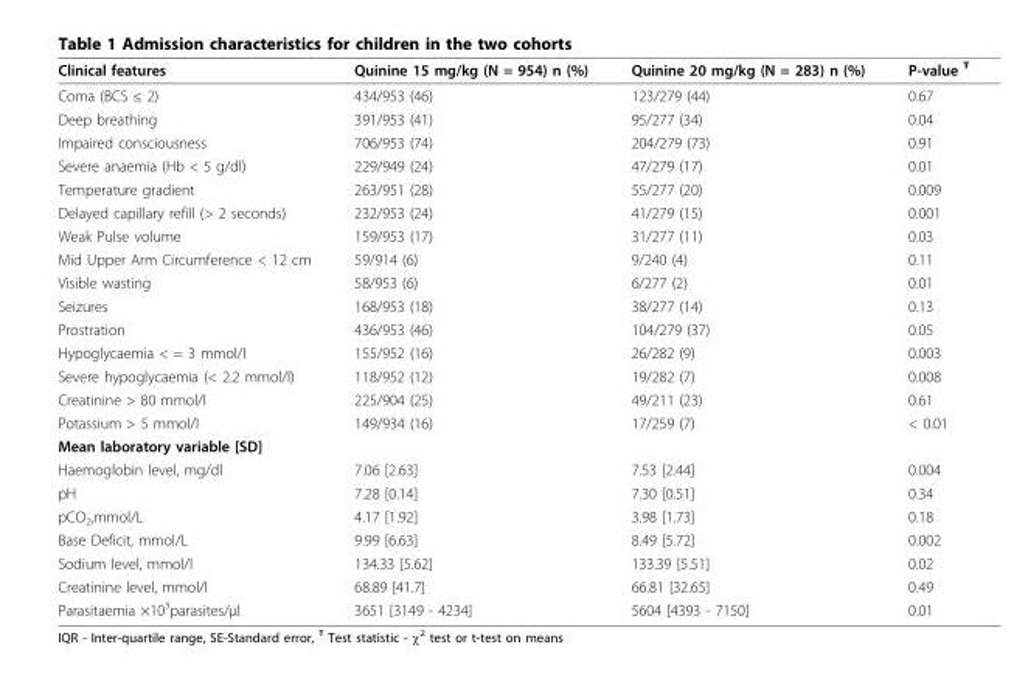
<table><thead><tr><td>Clinical features</td><td>Quinine 15 mg/kg (N = 954) n (%)</td><td>Quinine 20 mg/kg (N = 283) n (%)</td><td>P-value <sup>Ŧ</sup></td></tr></thead><tbody><tr><td>Coma (BCS ≤ 2)</td><td>434/953 (46)</td><td>123/279 (44)</td><td>0.67</td></tr><tr><td>Deep breathing</td><td>391/953 (41)</td><td>95/277 (34)</td><td>0.04</td></tr><tr><td>Impaired consciousness</td><td>706/953 (74)</td><td>204/279 (73)</td><td>0.91</td></tr><tr><td>Severe anaemia (Hb &lt; 5 g/dl)</td><td>229/949 (24)</td><td>47/279 (17)</td><td>0.01</td></tr><tr><td>Temperature gradient</td><td>263/951 (28)</td><td>55/277 (20)</td><td>0.009</td></tr><tr><td>Delayed capillary refill (&gt; 2 seconds)</td><td>232/953 (24)</td><td>41/279 (15)</td><td>0.001</td></tr><tr><td>Weak Pulse volume</td><td>159/953 (17)</td><td>31/277 (11)</td><td>0.03</td></tr><tr><td>Mid Upper Arm Circumference &lt; 12 cm</td><td>59/914 (6)</td><td>9/240 (4)</td><td>0.11</td></tr><tr><td>Visible wasting</td><td>58/953 (6)</td><td>6/277 (2)</td><td>0.01</td></tr><tr><td>Seizures</td><td>168/953 (18)</td><td>38/277 (14)</td><td>0.13</td></tr><tr><td>Prostration</td><td>436/953 (46)</td><td>104/279 (37)</td><td>0.05</td></tr><tr><td>Hypoglycaemia &lt; = 3 mmol/l</td><td>155/952 (16)</td><td>26/282 (9)</td><td>0.003</td></tr><tr><td>Severe hypoglycaemia (&lt; 2.2 mmol/l)</td><td>118/952 (12)</td><td>19/282 (7)</td><td>0.008</td></tr><tr><td>Creatinine &gt; 80 mmol/l</td><td>225/904 (25)</td><td>49/211 (23)</td><td>0.61</td></tr><tr><td>Potassium &gt; 5 mmol/l</td><td>149/934 (16)</td><td>17/259 (7)</td><td>&lt; 0.01</td></tr><tr><td colspan="4">Mean laboratory variable [SD]</td></tr><tr><td>Haemoglobin level, mg/dl</td><td>7.06 [2.63]</td><td>7.53 [2.44]</td><td>0.004</td></tr><tr><td>pH</td><td>7.28 [0.14]</td><td>7.30 [0.51]</td><td>0.34</td></tr><tr><td>pCO<sub>2</sub>,mmol/L</td><td>4.17 [1.92]</td><td>3.98 [1.73]</td><td>0.18</td></tr><tr><td>Base Deficit, mmol/L</td><td>9.99 [6.63]</td><td>8.49 [5.72]</td><td>0.002</td></tr><tr><td>Sodium level, mmol/l</td><td>134.33 [5.62]</td><td>133.39 [5.51]</td><td>0.02</td></tr><tr><td>Creatinine level, mmol/l</td><td>68.89 [41.7]</td><td>66.81 [32.65]</td><td>0.49</td></tr><tr><td>Parasitaemia ×10<sup>3</sup>parasites/μl</td><td>3651 [3149 - 4234]</td><td>5604 [4393 - 7150]</td><td>0.01</td></tr></tbody></table>